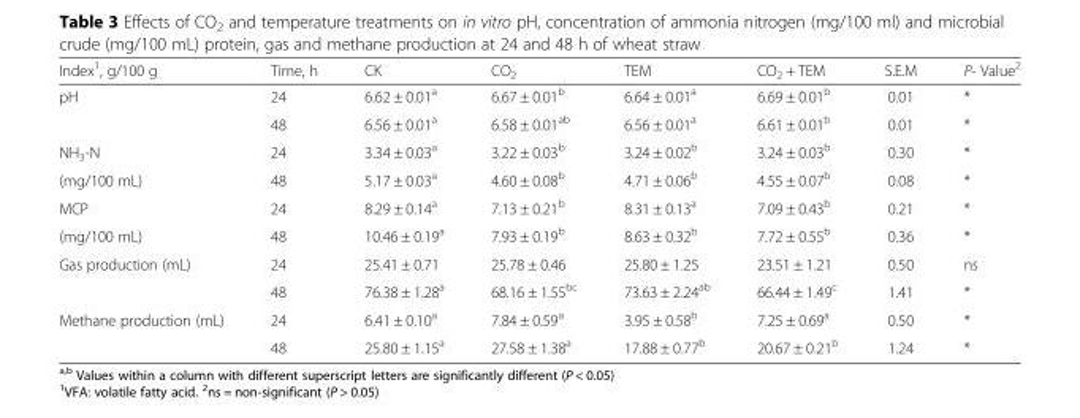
<table><thead><tr><td>Index<sup>1</sup>, g/100 g</td><td>Time, h</td><td>CK</td><td>CO<sub>2</sub></td><td>TEM</td><td>CO<sub>2</sub> + TEM</td><td>S.E.M</td><td>P- Value<sup>2</sup></td></tr></thead><tbody><tr><td rowspan="2">pH</td><td>24</td><td>6.62 ± 0.01<sup>a</sup></td><td>6.67 ± 0.01<sup>b</sup></td><td>6.64 ± 0.01<sup>a</sup></td><td>6.69 ± 0.01<sup>b</sup></td><td>0.01</td><td>*</td></tr><tr><td>48</td><td>6.56 ± 0.01<sup>a</sup></td><td>6.58 ± 0.01<sup>ab</sup></td><td>6.56 ± 0.01<sup>a</sup></td><td>6.61 ± 0.01<sup>b</sup></td><td>0.01</td><td>*</td></tr><tr><td>NH<sub>3</sub>-N</td><td>24</td><td>3.34 ± 0.03<sup>a</sup></td><td>3.22 ± 0.03<sup>b</sup></td><td>3.24 ± 0.02<sup>b</sup></td><td>3.24 ± 0.03<sup>b</sup></td><td>0.30</td><td>*</td></tr><tr><td>(mg/100 mL)</td><td>48</td><td>5.17 ± 0.03<sup>a</sup></td><td>4.60 ± 0.08<sup>b</sup></td><td>4.71 ± 0.06<sup>b</sup></td><td>4.55 ± 0.07<sup>b</sup></td><td>0.08</td><td>*</td></tr><tr><td>MCP</td><td>24</td><td>8.29 ± 0.14<sup>a</sup></td><td>7.13 ± 0.21<sup>b</sup></td><td>8.31 ± 0.13<sup>a</sup></td><td>7.09 ± 0.43<sup>b</sup></td><td>0.21</td><td>*</td></tr><tr><td>(mg/100 mL)</td><td>48</td><td>10.46 ± 0.19<sup>a</sup></td><td>7.93 ± 0.19<sup>b</sup></td><td>8.63 ± 0.32<sup>b</sup></td><td>7.72 ± 0.55<sup>b</sup></td><td>0.36</td><td>*</td></tr><tr><td rowspan="2">Gas production (mL)</td><td>24</td><td>25.41 ± 0.71</td><td>25.78 ± 0.46</td><td>25.80 ± 1.25</td><td>23.51 ± 1.21</td><td>0.50</td><td>ns</td></tr><tr><td>48</td><td>76.38 ± 1.28<sup>a</sup></td><td>68.16 ± 1.55<sup>bc</sup></td><td>73.63 ± 2.24<sup>ab</sup></td><td>66.44 ± 1.49<sup>c</sup></td><td>1.41</td><td>*</td></tr><tr><td rowspan="2">Methane production (mL)</td><td>24</td><td>6.41 ± 0.10<sup>a</sup></td><td>7.84 ± 0.59<sup>a</sup></td><td>3.95 ± 0.58<sup>b</sup></td><td>7.25 ± 0.69<sup>a</sup></td><td>0.50</td><td>*</td></tr><tr><td>48</td><td>25.80 ± 1.15<sup>a</sup></td><td>27.58 ± 1.38<sup>a</sup></td><td>17.88 ± 0.77<sup>b</sup></td><td>20.67 ± 0.21<sup>b</sup></td><td>1.24</td><td>*</td></tr></tbody></table>